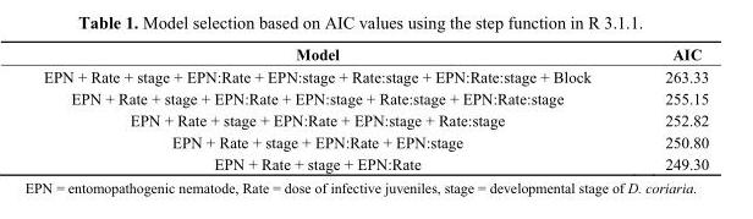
<table><thead><tr><td>Model</td><td>AIC</td></tr></thead><tbody><tr><td>EPN + Rate + stage + EPN:Rate + EPN:stage + Rate:stage + EPN:Rate:stage + Block</td><td>263.33</td></tr><tr><td>EPN + Rate + stage + EPN:Rate + EPN:stage + Rate:stage + EPN:Rate:stage</td><td>255.15</td></tr><tr><td>EPN + Rate + stage + EPN:Rate + EPN:stage + Rate:stage</td><td>252.82</td></tr><tr><td>EPN + Rate + stage + EPN:Rate + EPN:stage</td><td>250.80</td></tr><tr><td>EPN + Rate + stage + EPN:Rate</td><td>249.30</td></tr></tbody></table>